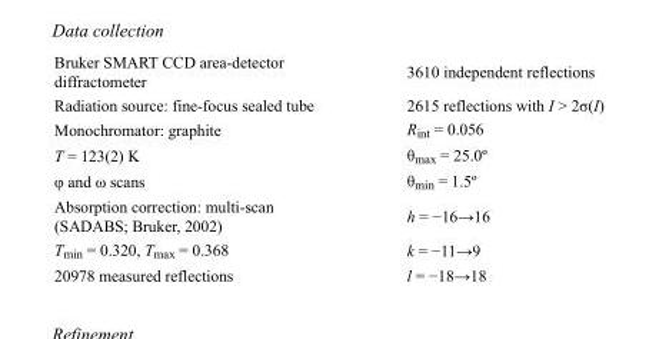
<table><tbody><tr><td>Bruker SMART CCD area-detector diffractometer</td><td>3610 independent reflections</td></tr><tr><td>Radiation source: fine-focus sealed tube</td><td>2615 reflections with I &gt; 2σ(I)</td></tr><tr><td>Monochromator: graphite</td><td>R<sub>int</sub> = 0.056</td></tr><tr><td>T = 123(2) K</td><td>θ<sub>max</sub> = 25.0º</td></tr><tr><td>φ and ω scans</td><td>θ<sub>min</sub> = 1.5º</td></tr><tr><td>Absorption correction: multi-scan (SADABS; Bruker, 2002)</td><td>h = −16→16</td></tr><tr><td>T<sub>min</sub> = 0.320, T<sub>max</sub> = 0.368</td><td>k = −11→9</td></tr><tr><td>20978 measured reflections</td><td>l = −18→18</td></tr></tbody></table>